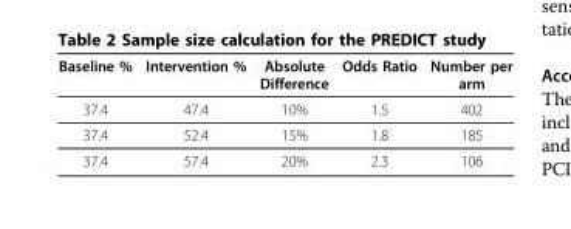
<table><thead><tr><td>Baseline %</td><td>Intervention %</td><td>Absolute Difference</td><td>Odds Ratio</td><td>Number per arm</td></tr></thead><tbody><tr><td>37.4</td><td>47.4</td><td>10%</td><td>1.5</td><td>402</td></tr><tr><td>37.4</td><td>52.4</td><td>15%</td><td>1.8</td><td>185</td></tr><tr><td>37.4</td><td>57.4</td><td>20%</td><td>2.3</td><td>106</td></tr></tbody></table>